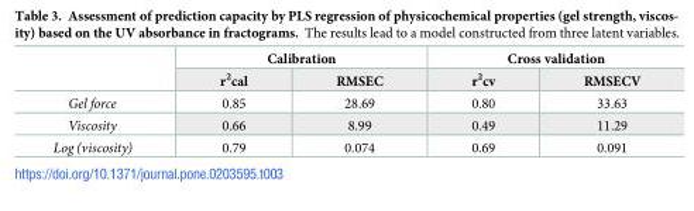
<table><thead><tr><td rowspan="2"></td><td colspan="2">Calibration</td><td colspan="2">Cross validation</td></tr><tr><td>r<sup>2</sup>cal</td><td>RMSEC</td><td>r<sup>2</sup>cv</td><td>RMSECV</td></tr></thead><tbody><tr><td>Gel force</td><td>0.85</td><td>28.69</td><td>0.80</td><td>33.63</td></tr><tr><td>Viscosity</td><td>0.66</td><td>8.99</td><td>0.49</td><td>11.29</td></tr><tr><td>Log (viscosity)</td><td>0.79</td><td>0.074</td><td>0.69</td><td>0.091</td></tr></tbody></table>